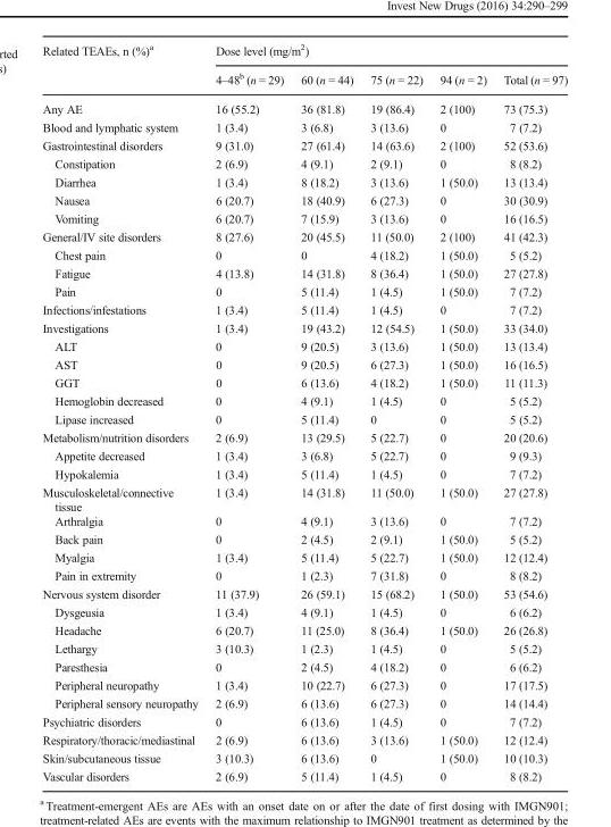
<table><thead><tr><td rowspan="2">Related TEAEs, n (%)<sup>a</sup></td><td colspan="5">Dose level (mg/m<sup>2</sup>)</td></tr><tr><td>4–48<sup>b</sup> (n = 29)</td><td>60 (n = 44)</td><td>75 (n = 22)</td><td>94 (n = 2)</td><td>Total (n = 97)</td></tr></thead><tbody><tr><td>Any AE</td><td>16 (55.2)</td><td>36 (81.8)</td><td>19 (86.4)</td><td>2 (100)</td><td>73 (75.3)</td></tr><tr><td>Blood and lymphatic system</td><td>1 (3.4)</td><td>3 (6.8)</td><td>3 (13.6)</td><td>0</td><td>7 (7.2)</td></tr><tr><td>Gastrointestinal disorders</td><td>9 (31.0)</td><td>27 (61.4)</td><td>14 (63.6)</td><td>2 (100)</td><td>52 (53.6)</td></tr><tr><td>Constipation</td><td>2 (6.9)</td><td>4 (9.1)</td><td>2 (9.1)</td><td>0</td><td>8 (8.2)</td></tr><tr><td>Diarrhea</td><td>1 (3.4)</td><td>8 (18.2)</td><td>3 (13.6)</td><td>1 (50.0)</td><td>13 (13.4)</td></tr><tr><td>Nausea</td><td>6 (20.7)</td><td>18 (40.9)</td><td>6 (27.3)</td><td>0</td><td>30 (30.9)</td></tr><tr><td>Vomiting</td><td>6 (20.7)</td><td>7 (15.9)</td><td>3 (13.6)</td><td>0</td><td>16 (16.5)</td></tr><tr><td>General/IV site disorders</td><td>8 (27.6)</td><td>20 (45.5)</td><td>11 (50.0)</td><td>2 (100)</td><td>41 (42.3)</td></tr><tr><td>Chest pain</td><td>0</td><td>0</td><td>4 (18.2)</td><td>1 (50.0)</td><td>5 (5.2)</td></tr><tr><td>Fatigue</td><td>4 (13.8)</td><td>14 (31.8)</td><td>8 (36.4)</td><td>1 (50.0)</td><td>27 (27.8)</td></tr><tr><td>Pain</td><td>0</td><td>5 (11.4)</td><td>1 (4.5)</td><td>1 (50.0)</td><td>7 (7.2)</td></tr><tr><td>Infections/infestations</td><td>1 (3.4)</td><td>5 (11.4)</td><td>1 (4.5)</td><td>0</td><td>7 (7.2)</td></tr><tr><td>Investigations</td><td>1 (3.4)</td><td>19 (43.2)</td><td>12 (54.5)</td><td>1 (50.0)</td><td>33 (34.0)</td></tr><tr><td>ALT</td><td>0</td><td>9 (20.5)</td><td>3 (13.6)</td><td>1 (50.0)</td><td>13 (13.4)</td></tr><tr><td>AST</td><td>0</td><td>9 (20.5)</td><td>6 (27.3)</td><td>1 (50.0)</td><td>16 (16.5)</td></tr><tr><td>GGT</td><td>0</td><td>6 (13.6)</td><td>4 (18.2)</td><td>1 (50.0)</td><td>11 (11.3)</td></tr><tr><td>Hemoglobin decreased</td><td>0</td><td>4 (9.1)</td><td>1 (4.5)</td><td>0</td><td>5 (5.2)</td></tr><tr><td>Lipase increased</td><td>0</td><td>5 (11.4)</td><td>0</td><td>0</td><td>5 (5.2)</td></tr><tr><td>Metabolism/nutrition disorders</td><td>2 (6.9)</td><td>13 (29.5)</td><td>5 (22.7)</td><td>0</td><td>20 (20.6)</td></tr><tr><td>Appetite decreased</td><td>1 (3.4)</td><td>3 (6.8)</td><td>5 (22.7)</td><td>0</td><td>9 (9.3)</td></tr><tr><td>Hypokalemia</td><td>1 (3.4)</td><td>5 (11.4)</td><td>1 (4.5)</td><td>0</td><td>7 (7.2)</td></tr><tr><td>Musculoskeletal/connective tissue</td><td>1 (3.4)</td><td>14 (31.8)</td><td>11 (50.0)</td><td>1 (50.0)</td><td>27 (27.8)</td></tr><tr><td>Arthralgia</td><td>0</td><td>4 (9.1)</td><td>3 (13.6)</td><td>0</td><td>7 (7.2)</td></tr><tr><td>Back pain</td><td>0</td><td>2 (4.5)</td><td>2 (9.1)</td><td>1 (50.0)</td><td>5 (5.2)</td></tr><tr><td>Myalgia</td><td>1 (3.4)</td><td>5 (11.4)</td><td>5 (22.7)</td><td>1 (50.0)</td><td>12 (12.4)</td></tr><tr><td>Pain in extremity</td><td>0</td><td>1 (2.3)</td><td>7 (31.8)</td><td>0</td><td>8 (8.2)</td></tr><tr><td>Nervous system disorder</td><td>11 (37.9)</td><td>26 (59.1)</td><td>15 (68.2)</td><td>1 (50.0)</td><td>53 (54.6)</td></tr><tr><td>Dysgeusia</td><td>1 (3.4)</td><td>4 (9.1)</td><td>1 (4.5)</td><td>0</td><td>6 (6.2)</td></tr><tr><td>Headache</td><td>6 (20.7)</td><td>11 (25.0)</td><td>8 (36.4)</td><td>1 (50.0)</td><td>26 (26.8)</td></tr><tr><td>Lethargy</td><td>3 (10.3)</td><td>1 (2.3)</td><td>1 (4.5)</td><td>0</td><td>5 (5.2)</td></tr><tr><td>Paresthesia</td><td>0</td><td>2 (4.5)</td><td>4 (18.2)</td><td>0</td><td>6 (6.2)</td></tr><tr><td>Peripheral neuropathy</td><td>1 (3.4)</td><td>10 (22.7)</td><td>6 (27.3)</td><td>0</td><td>17 (17.5)</td></tr><tr><td>Peripheral sensory neuropathy</td><td>2 (6.9)</td><td>6 (13.6)</td><td>6 (27.3)</td><td>0</td><td>14 (14.4)</td></tr><tr><td>Psychiatric disorders</td><td>0</td><td>6 (13.6)</td><td>1 (4.5)</td><td>0</td><td>7 (7.2)</td></tr><tr><td>Respiratory/thoracic/mediastinal</td><td>2 (6.9)</td><td>6 (13.6)</td><td>3 (13.6)</td><td>1 (50.0)</td><td>12 (12.4)</td></tr><tr><td>Skin/subcutaneous tissue</td><td>3 (10.3)</td><td>6 (13.6)</td><td>0</td><td>1 (50.0)</td><td>10 (10.3)</td></tr><tr><td>Vascular disorders</td><td>2 (6.9)</td><td>5 (11.4)</td><td>1 (4.5)</td><td>0</td><td>8 (8.2)</td></tr></tbody></table>